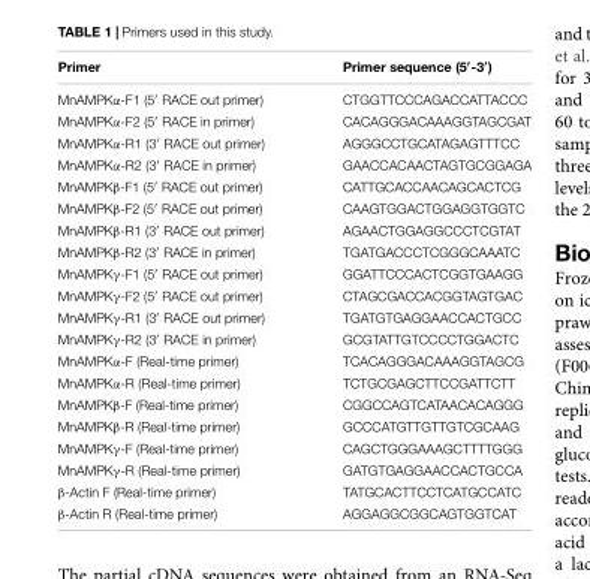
<table><thead><tr><td>Primer</td><td>Primer sequence (5′-3′)</td></tr></thead><tbody><tr><td>MnAMPKα-F1 (5′ RACE out primer)</td><td>CTGGTTCCCAGACCATTACCC</td></tr><tr><td>MnAMPKα-F2 (5′ RACE in primer)</td><td>CACAGGGACAAAGGTAGCGAT</td></tr><tr><td>MnAMPKα-R1 (3′ RACE out primer)</td><td>AGGGCCTGCATAGAGTTTCC</td></tr><tr><td>MnAMPKα-R2 (3′ RACE in primer)</td><td>GAACCACAACTAGTGCGGAGA</td></tr><tr><td>MnAMPKβ-F1 (5′ RACE out primer)</td><td>CATTGCACCAACAGCACTCG</td></tr><tr><td>MnAMPKβ-F2 (5′ RACE out primer)</td><td>CAAGTGGACTGGAGGTGGTC</td></tr><tr><td>MnAMPKβ-R1 (3′ RACE out primer)</td><td>AGAACTGGAGGCCCTCGTAT</td></tr><tr><td>MnAMPKβ-R2 (3′ RACE in primer)</td><td>TGATGACCCTCGGGCAAATC</td></tr><tr><td>MnAMPKγ-F1 (5′ RACE out primer)</td><td>GGATTCCCACTCGGTGAAGG</td></tr><tr><td>MnAMPKγ-F2 (5′ RACE out primer)</td><td>CTAGCGACCACGGTAGTGAC</td></tr><tr><td>MnAMPKγ-R1 (3′ RACE out primer)</td><td>TGATGTGAGGAACCACTGCC</td></tr><tr><td>MnAMPKγ-R2 (3′ RACE in primer)</td><td>GCGTATTGTCCCCTGGACTC</td></tr><tr><td>MnAMPKα-F (Real-time primer)</td><td>TCACAGGGACAAAGGTAGCG</td></tr><tr><td>MnAMPKα-R (Real-time primer)</td><td>TCTGCGAGCTTCCGATTCTT</td></tr><tr><td>MnAMPKβ-F (Real-time primer)</td><td>CGGCCAGTCATAACACAGGG</td></tr><tr><td>MnAMPKβ-R (Real-time primer)</td><td>GCCCATGTTGTTGTCGCAAG</td></tr><tr><td>MnAMPKγ-F (Real-time primer)</td><td>CAGCTGGGAAAGCTTTTGGG</td></tr><tr><td>MnAMPKγ-R (Real-time primer)</td><td>GATGTGAGGAACCACTGCCA</td></tr><tr><td>β-Actin F (Real-time primer)</td><td>TATGCACTTCCTCATGCCATC</td></tr><tr><td>β-Actin R (Real-time primer)</td><td>AGGAGGCGGCAGTGGTCAT</td></tr></tbody></table>